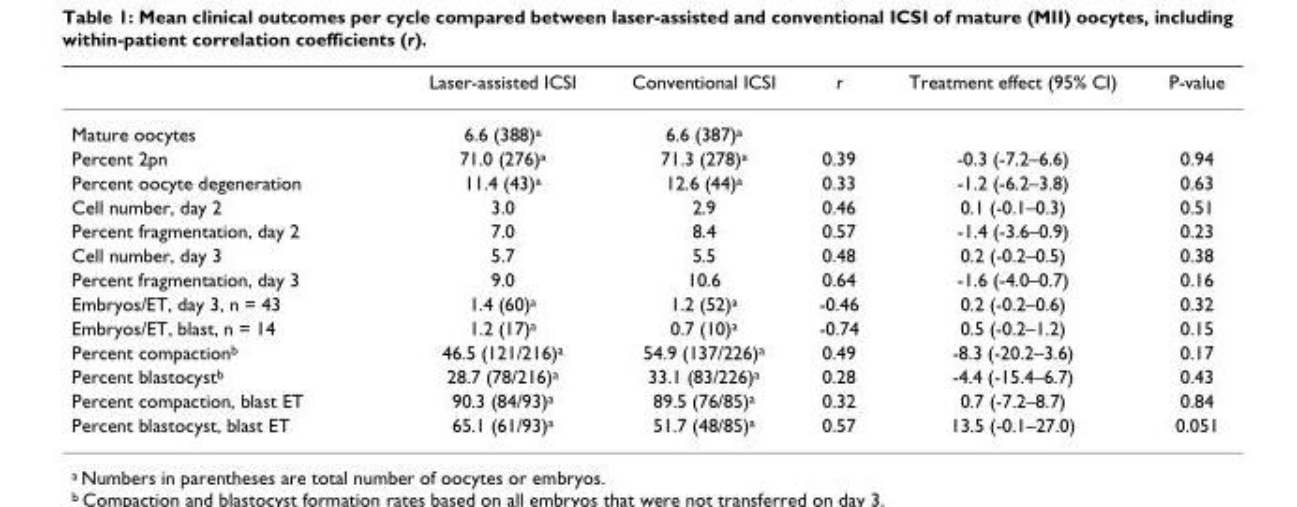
<table><thead><tr><td></td><td>Laser-assisted ICSI</td><td>Conventional ICSI</td><td>r</td><td>Treatment effect (95% CI)</td><td>P-value</td></tr></thead><tbody><tr><td>Mature oocytes</td><td>6.6 (388)<sup>a</sup></td><td>6.6 (387)<sup>a</sup></td><td></td><td></td><td></td></tr><tr><td>Percent 2pn</td><td>71.0 (276)<sup>a</sup></td><td>71.3 (278)<sup>a</sup></td><td>0.39</td><td>-0.3 (-7.2–6.6)</td><td>0.94</td></tr><tr><td>Percent oocyte degeneration</td><td>11.4 (43)<sup>a</sup></td><td>12.6 (44)<sup>a</sup></td><td>0.33</td><td>-1.2 (-6.2–3.8)</td><td>0.63</td></tr><tr><td>Cell number, day 2</td><td>3.0</td><td>2.9</td><td>0.46</td><td>0.1 (-0.1–0.3)</td><td>0.51</td></tr><tr><td>Percent fragmentation, day 2</td><td>7.0</td><td>8.4</td><td>0.57</td><td>-1.4 (-3.6–0.9)</td><td>0.23</td></tr><tr><td>Cell number, day 3</td><td>5.7</td><td>5.5</td><td>0.48</td><td>0.2 (-0.2–0.5)</td><td>0.38</td></tr><tr><td>Percent fragmentation, day 3</td><td>9.0</td><td>10.6</td><td>0.64</td><td>-1.6 (-4.0–0.7)</td><td>0.16</td></tr><tr><td>Embryos/ET, day 3, n = 43</td><td>1.4 (60)<sup>a</sup></td><td>1.2 (52)<sup>a</sup></td><td>-0.46</td><td>0.2 (-0.2–0.6)</td><td>0.32</td></tr><tr><td>Embryos/ET, blast, n = 14</td><td>1.2 (17)<sup>a</sup></td><td>0.7 (10)<sup>a</sup></td><td>-0.74</td><td>0.5 (-0.2–1.2)</td><td>0.15</td></tr><tr><td>Percent compaction<sup>b</sup></td><td>46.5 (121/216)<sup>a</sup></td><td>54.9 (137/226)<sup>a</sup></td><td>0.49</td><td>-8.3 (-20.2–3.6)</td><td>0.17</td></tr><tr><td>Percent blastocyst<sup>b</sup></td><td>28.7 (78/216)<sup>a</sup></td><td>33.1 (83/226)<sup>a</sup></td><td>0.28</td><td>-4.4 (-15.4–6.7)</td><td>0.43</td></tr><tr><td>Percent compaction, blast ET</td><td>90.3 (84/93)<sup>a</sup></td><td>89.5 (76/85)<sup>a</sup></td><td>0.32</td><td>0.7 (-7.2–8.7)</td><td>0.84</td></tr><tr><td>Percent blastocyst, blast ET</td><td>65.1 (61/93)<sup>a</sup></td><td>51.7 (48/85)<sup>a</sup></td><td>0.57</td><td>13.5 (-0.1–27.0)</td><td>0.051</td></tr></tbody></table>